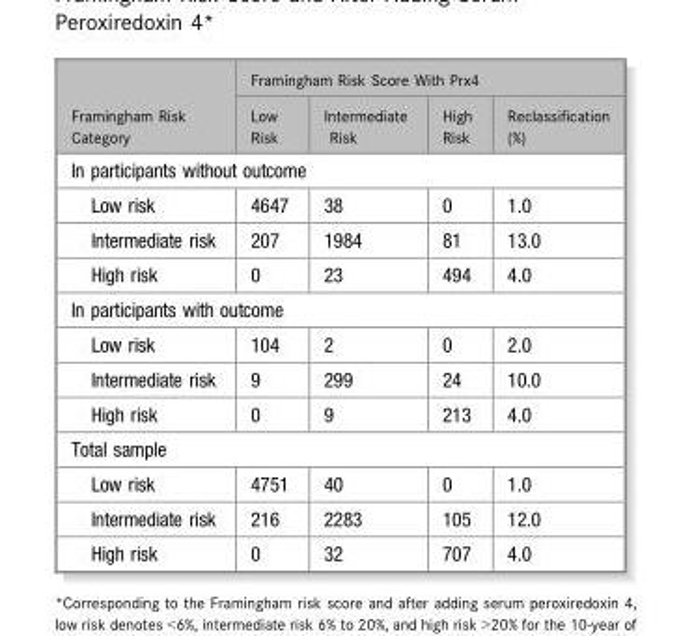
<table><thead><tr><td rowspan="2">Framingham Risk Category</td><td colspan="4">Framingham Risk Score With Prx4</td></tr><tr><td>Low Risk</td><td>Intermediate Risk</td><td>High Risk</td><td>Reclassification (%)</td></tr></thead><tbody><tr><td colspan="5">In participants without outcome</td></tr><tr><td>Low risk</td><td>4647</td><td>38</td><td>0</td><td>1.0</td></tr><tr><td>Intermediate risk</td><td>207</td><td>1984</td><td>81</td><td>13.0</td></tr><tr><td>High risk</td><td>0</td><td>23</td><td>494</td><td>4.0</td></tr><tr><td colspan="5">In participants with outcome</td></tr><tr><td>Low risk</td><td>104</td><td>2</td><td>0</td><td>2.0</td></tr><tr><td>Intermediate risk</td><td>9</td><td>299</td><td>24</td><td>10.0</td></tr><tr><td>High risk</td><td>0</td><td>9</td><td>213</td><td>4.0</td></tr><tr><td colspan="5">Total sample</td></tr><tr><td>Low risk</td><td>4751</td><td>40</td><td>0</td><td>1.0</td></tr><tr><td>Intermediate risk</td><td>216</td><td>2283</td><td>105</td><td>12.0</td></tr><tr><td>High risk</td><td>0</td><td>32</td><td>707</td><td>4.0</td></tr></tbody></table>